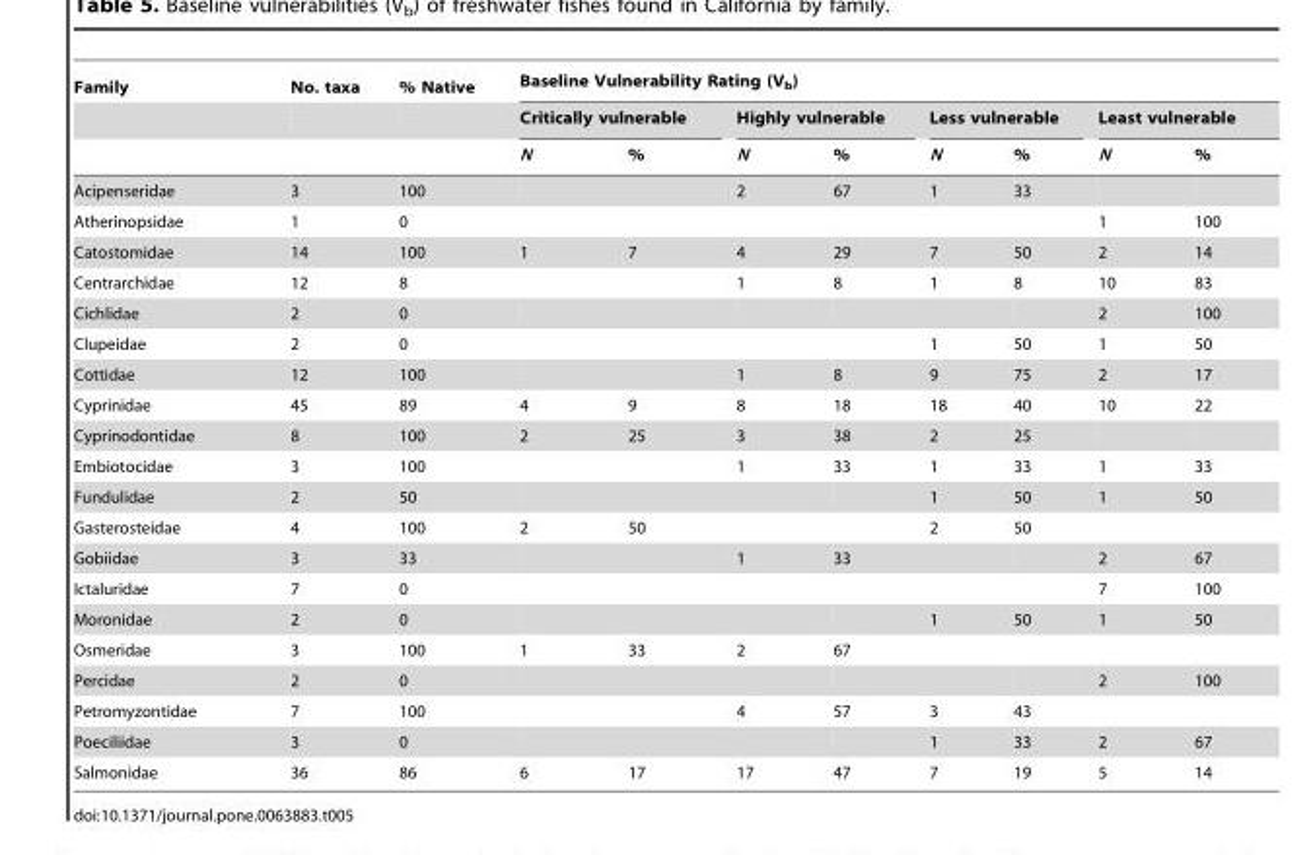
<table><thead><tr><td rowspan="3">Family</td><td rowspan="3">No. taxa</td><td rowspan="3">% Native</td><td colspan="8">Baseline Vulnerability Rating (V<sub>b</sub>)</td></tr><tr><td colspan="2">Critically vulnerable</td><td colspan="2">Highly vulnerable</td><td colspan="2">Less vulnerable</td><td colspan="2">Least vulnerable</td></tr><tr><td>N</td><td>%</td><td>N</td><td>%</td><td>N</td><td>%</td><td>N</td><td>%</td></tr></thead><tbody><tr><td>Acipenseridae</td><td>3</td><td>100</td><td></td><td></td><td>2</td><td>67</td><td>1</td><td>33</td><td></td><td></td></tr><tr><td>Atherinopsidae</td><td>1</td><td>0</td><td></td><td></td><td></td><td></td><td></td><td></td><td>1</td><td>100</td></tr><tr><td>Catostomidae</td><td>14</td><td>100</td><td>1</td><td>7</td><td>4</td><td>29</td><td>7</td><td>50</td><td>2</td><td>14</td></tr><tr><td>Centrarchidae</td><td>12</td><td>8</td><td></td><td></td><td>1</td><td>8</td><td>1</td><td>8</td><td>10</td><td>83</td></tr><tr><td>Cichlidae</td><td>2</td><td>0</td><td></td><td></td><td></td><td></td><td></td><td></td><td>2</td><td>100</td></tr><tr><td>Clupeidae</td><td>2</td><td>0</td><td></td><td></td><td></td><td></td><td>1</td><td>50</td><td>1</td><td>50</td></tr><tr><td>Cottidae</td><td>12</td><td>100</td><td></td><td></td><td>1</td><td>8</td><td>9</td><td>75</td><td>2</td><td>17</td></tr><tr><td>Cyprinidae</td><td>45</td><td>89</td><td>4</td><td>9</td><td>8</td><td>18</td><td>18</td><td>40</td><td>10</td><td>22</td></tr><tr><td>Cyprinodontidae</td><td>8</td><td>100</td><td>2</td><td>25</td><td>3</td><td>38</td><td>2</td><td>25</td><td></td><td></td></tr><tr><td>Embiotocidae</td><td>3</td><td>100</td><td></td><td></td><td>1</td><td>33</td><td>1</td><td>33</td><td>1</td><td>33</td></tr><tr><td>Fundulidae</td><td>2</td><td>50</td><td></td><td></td><td></td><td></td><td>1</td><td>50</td><td>1</td><td>50</td></tr><tr><td>Gasterosteidae</td><td>4</td><td>100</td><td>2</td><td>50</td><td></td><td></td><td>2</td><td>50</td><td></td><td></td></tr><tr><td>Gobiidae</td><td>3</td><td>33</td><td></td><td></td><td>1</td><td>33</td><td></td><td></td><td>2</td><td>67</td></tr><tr><td>Ictaluridae</td><td>7</td><td>0</td><td></td><td></td><td></td><td></td><td></td><td></td><td>7</td><td>100</td></tr><tr><td>Moronidae</td><td>2</td><td>0</td><td></td><td></td><td></td><td></td><td>1</td><td>50</td><td>1</td><td>50</td></tr><tr><td>Osmeridae</td><td>3</td><td>100</td><td>1</td><td>33</td><td>2</td><td>67</td><td></td><td></td><td></td><td></td></tr><tr><td>Percidae</td><td>2</td><td>0</td><td></td><td></td><td></td><td></td><td></td><td></td><td>2</td><td>100</td></tr><tr><td>Petromyzontidae</td><td>7</td><td>100</td><td></td><td></td><td>4</td><td>57</td><td>3</td><td>43</td><td></td><td></td></tr><tr><td>Poeciliidae</td><td>3</td><td>0</td><td></td><td></td><td></td><td></td><td>1</td><td>33</td><td>2</td><td>67</td></tr><tr><td>Salmonidae</td><td>36</td><td>86</td><td>6</td><td>17</td><td>17</td><td>47</td><td>7</td><td>19</td><td>5</td><td>14</td></tr></tbody></table>